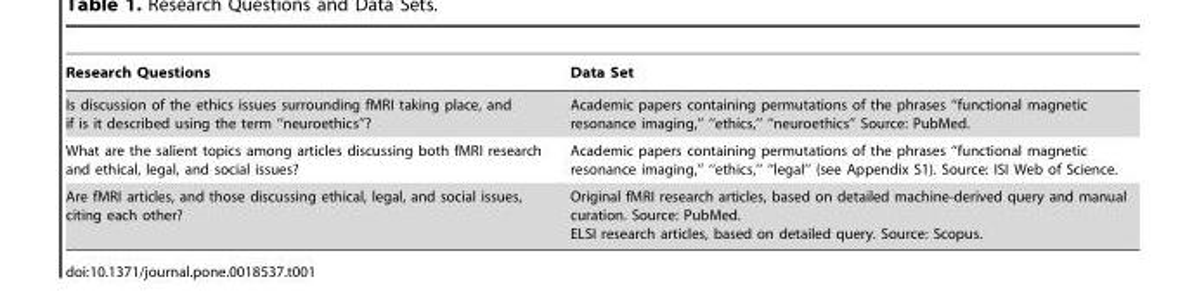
<table><thead><tr><td>Research Questions</td><td>Data Set</td></tr></thead><tbody><tr><td>Is discussion of the ethics issues surrounding fMRI taking place, and if is it described using the term ‘‘neuroethics’’?</td><td>Academic papers containing permutations of the phrases ‘‘functional magnetic resonance imaging,’’ ‘‘ethics,’’ ‘‘neuroethics’’ Source: PubMed.</td></tr><tr><td>What are the salient topics among articles discussing both fMRI research and ethical, legal, and social issues?</td><td>Academic papers containing permutations of the phrases ‘‘functional magnetic resonance imaging,’’ ‘‘ethics,’’ ‘‘legal’’ (see Appendix S1). Source: ISI Web of Science.</td></tr><tr><td>Are fMRI articles, and those discussing ethical, legal, and social issues, citing each other?</td><td>Original fMRI research articles, based on detailed machine-derived query and manual curation. Source: PubMed. ELSI research articles, based on detailed query. Source: Scopus.</td></tr></tbody></table>